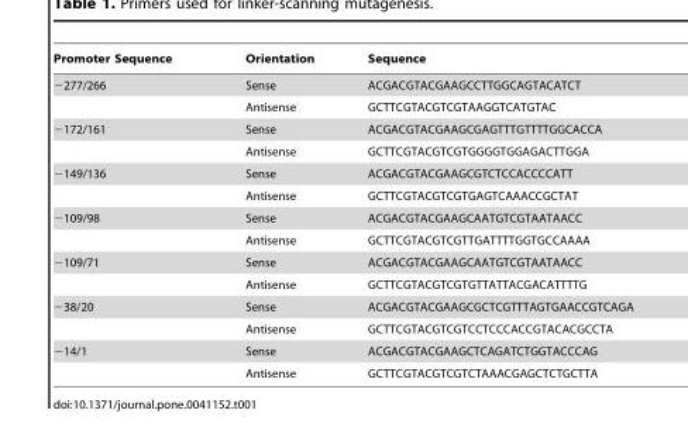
<table><thead><tr><td>Promoter Sequence</td><td>Orientation</td><td>Sequence</td></tr></thead><tbody><tr><td rowspan="2">−277/266</td><td>Sense</td><td>ACGACGTACGAAGCCTTGGCAGTACATCT</td></tr><tr><td>Antisense</td><td>GCTTCGTACGTCGTAAGGTCATGTAC</td></tr><tr><td rowspan="2">−172/161</td><td>Sense</td><td>ACGACGTACGAAGCGAGTTTGTTTTGGCACCA</td></tr><tr><td>Antisense</td><td>GCTTCGTACGTCGTGGGGTGGAGACTTGGA</td></tr><tr><td rowspan="2">−149/136</td><td>Sense</td><td>ACGACGTACGAAGCGTCTCCACCCCATT</td></tr><tr><td>Antisense</td><td>GCTTCGTACGTCGTGAGTCAAACCGCTAT</td></tr><tr><td rowspan="2">−109/98</td><td>Sense</td><td>ACGACGTACGAAGCAATGTCGTAATAACC</td></tr><tr><td>Antisense</td><td>GCTTCGTACGTCGTTGATTTTGGTGCCAAAA</td></tr><tr><td rowspan="2">−109/71</td><td>Sense</td><td>ACGACGTACGAAGCAATGTCGTAATAACC</td></tr><tr><td>Antisense</td><td>GCTTCGTACGTCGTGTTATTACGACATTTTG</td></tr><tr><td rowspan="2">−38/20</td><td>Sense</td><td>ACGACGTACGAAGCGCTCGTTTAGTGAACCGTCAGA</td></tr><tr><td>Antisense</td><td>GCTTCGTACGTCGTCCTCCCACCGTACACGCCTA</td></tr><tr><td rowspan="2">−14/1</td><td>Sense</td><td>ACGACGTACGAAGCTCAGATCTGGTACCCAG</td></tr><tr><td>Antisense</td><td>GCTTCGTACGTCGTCTAAACGAGCTCTGCTTA</td></tr></tbody></table>